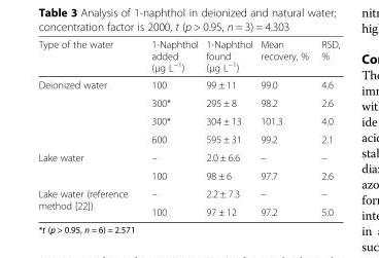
<table><thead><tr><td>Type of the water</td><td>1-Naphthol added (μg L<sup>−1</sup>)</td><td>1-Naphthol found (μg L<sup>−1</sup>)</td><td>Mean recovery, %</td><td>RSD, %</td></tr></thead><tbody><tr><td rowspan="4">Deionized water</td><td>100</td><td>99 ± 11</td><td>99.0</td><td>4.6</td></tr><tr><td>300*</td><td>295 ± 8</td><td>98.2</td><td>2.6</td></tr><tr><td>300*</td><td>304 ± 13</td><td>101.3</td><td>4.0</td></tr><tr><td>600</td><td>595 ± 31</td><td>99.2</td><td>2.1</td></tr><tr><td rowspan="2">Lake water</td><td>–</td><td>2.0 ± 6.6</td><td>–</td><td>–</td></tr><tr><td>100</td><td>98 ± 6</td><td>97.7</td><td>2.6</td></tr><tr><td rowspan="2">Lake water (reference method [22])</td><td>–</td><td>2.2 ± 7.3</td><td>–</td><td>–</td></tr><tr><td>100</td><td>97 ± 12</td><td>97.2</td><td>5.0</td></tr></tbody></table>